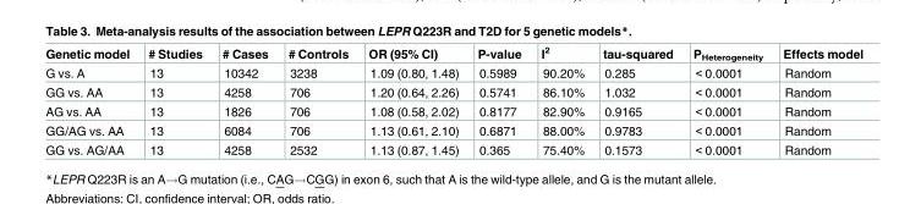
<table><thead><tr><td>Genetic model</td><td># Studies</td><td># Cases</td><td># Controls</td><td>OR (95% CI)</td><td>P-value</td><td>I<sup>2</sup></td><td>tau-squared</td><td>P<sub>Heterogeneity</sub></td><td>Effects model</td></tr></thead><tbody><tr><td>G vs. A</td><td>13</td><td>10342</td><td>3238</td><td>1.09 (0.80, 1.48)</td><td>0.5989</td><td>90.20%</td><td>0.285</td><td>&lt; 0.0001</td><td>Random</td></tr><tr><td>GG vs. AA</td><td>13</td><td>4258</td><td>706</td><td>1.20 (0.64, 2.26)</td><td>0.5741</td><td>86.10%</td><td>1.032</td><td>&lt; 0.0001</td><td>Random</td></tr><tr><td>AG vs. AA</td><td>13</td><td>1826</td><td>706</td><td>1.08 (0.58, 2.02)</td><td>0.8177</td><td>82.90%</td><td>0.9165</td><td>&lt; 0.0001</td><td>Random</td></tr><tr><td>GG/AG vs. AA</td><td>13</td><td>6084</td><td>706</td><td>1.13 (0.61, 2.10)</td><td>0.6871</td><td>88.00%</td><td>0.9783</td><td>&lt; 0.0001</td><td>Random</td></tr><tr><td>GG vs. AG/AA</td><td>13</td><td>4258</td><td>2532</td><td>1.13 (0.87, 1.45)</td><td>0.365</td><td>75.40%</td><td>0.1573</td><td>&lt; 0.0001</td><td>Random</td></tr></tbody></table>